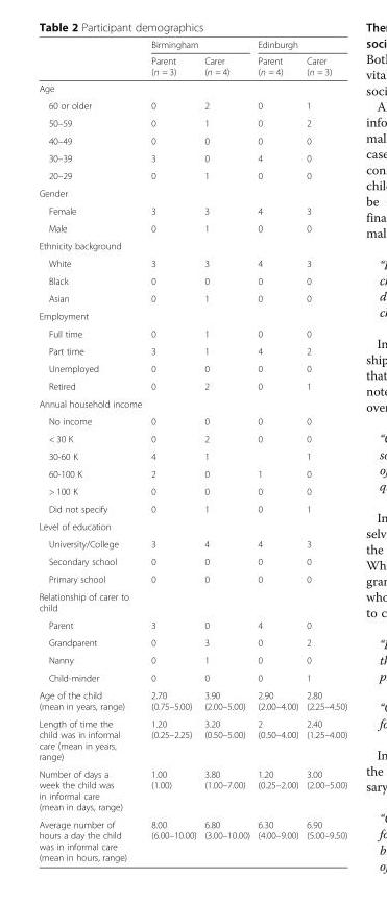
<table><thead><tr><td rowspan="2"></td><td colspan="2">Birmingham</td><td colspan="2">Edinburgh</td></tr><tr><td>Parent (n = 3)</td><td>Carer (n = 4)</td><td>Parent (n = 4)</td><td>Carer (n = 3)</td></tr></thead><tbody><tr><td colspan="5">Age</td></tr><tr><td>60 or older</td><td>0</td><td>2</td><td>0</td><td>1</td></tr><tr><td>50–59</td><td>0</td><td>1</td><td>0</td><td>2</td></tr><tr><td>40–49</td><td>0</td><td>0</td><td>0</td><td>0</td></tr><tr><td>30–39</td><td>3</td><td>0</td><td>4</td><td>0</td></tr><tr><td>20–29</td><td>0</td><td>1</td><td>0</td><td>0</td></tr><tr><td colspan="5">Gender</td></tr><tr><td>Female</td><td>3</td><td>3</td><td>4</td><td>3</td></tr><tr><td>Male</td><td>0</td><td>1</td><td>0</td><td>0</td></tr><tr><td colspan="5">Ethnicity background</td></tr><tr><td>White</td><td>3</td><td>3</td><td>4</td><td>3</td></tr><tr><td>Black</td><td>0</td><td>0</td><td>0</td><td>0</td></tr><tr><td>Asian</td><td>0</td><td>1</td><td>0</td><td>0</td></tr><tr><td colspan="5">Employment</td></tr><tr><td>Full time</td><td>0</td><td>1</td><td>0</td><td>0</td></tr><tr><td>Part time</td><td>3</td><td>1</td><td>4</td><td>2</td></tr><tr><td>Unemployed</td><td>0</td><td>0</td><td>0</td><td>0</td></tr><tr><td>Retired</td><td>0</td><td>2</td><td>0</td><td>1</td></tr><tr><td colspan="5">Annual household income</td></tr><tr><td>No income</td><td>0</td><td>0</td><td>0</td><td>0</td></tr><tr><td>&lt; 30 K</td><td>0</td><td>2</td><td>0</td><td>0</td></tr><tr><td>30-60 K</td><td>4</td><td>1</td><td></td><td>1</td></tr><tr><td>60-100 K</td><td>2</td><td>0</td><td>1</td><td>0</td></tr><tr><td>&gt; 100 K</td><td>0</td><td>0</td><td>0</td><td>0</td></tr><tr><td>Did not specify</td><td>0</td><td>1</td><td>0</td><td>1</td></tr><tr><td colspan="5">Level of education</td></tr><tr><td>University/College</td><td>3</td><td>4</td><td>4</td><td>3</td></tr><tr><td>Secondary school</td><td>0</td><td>0</td><td>0</td><td>0</td></tr><tr><td>Primary school</td><td>0</td><td>0</td><td>0</td><td>0</td></tr><tr><td colspan="5">Relationship of carer to child</td></tr><tr><td>Parent</td><td>3</td><td>0</td><td>4</td><td>0</td></tr><tr><td>Grandparent</td><td>0</td><td>3</td><td>0</td><td>2</td></tr><tr><td>Nanny</td><td>0</td><td>1</td><td>0</td><td>0</td></tr><tr><td>Child-minder</td><td>0</td><td>0</td><td>0</td><td>1</td></tr><tr><td>Age of the child (mean in years, range)</td><td>2.70 (0.75–5.00)</td><td>3.90 (2.00–5.00)</td><td>2.90 (2.00–4.00)</td><td>2.80 (2.25–4.50)</td></tr><tr><td>Length of time the child was in informal care (mean in years, range)</td><td>1.20 (0.25–2.25)</td><td>3.20 (0.50–5.00)</td><td>2 (0.50–4.00)</td><td>2.40 (1.25–4.00)</td></tr><tr><td>Number of days a week the child was in informal care (mean in days, range)</td><td>1.00 (1.00)</td><td>3.80 (1.00–7.00)</td><td>1.20 (0.25–2.00)</td><td>3.00 (2.00–5.00)</td></tr><tr><td>Average number of hours a day the child was in informal care (mean in hours, range)</td><td>8.00 (6.00–10.00)</td><td>6.80 (3.00–10.00)</td><td>6.30 (4.00–9.00)</td><td>6.90 (5.00–9.50)</td></tr></tbody></table>